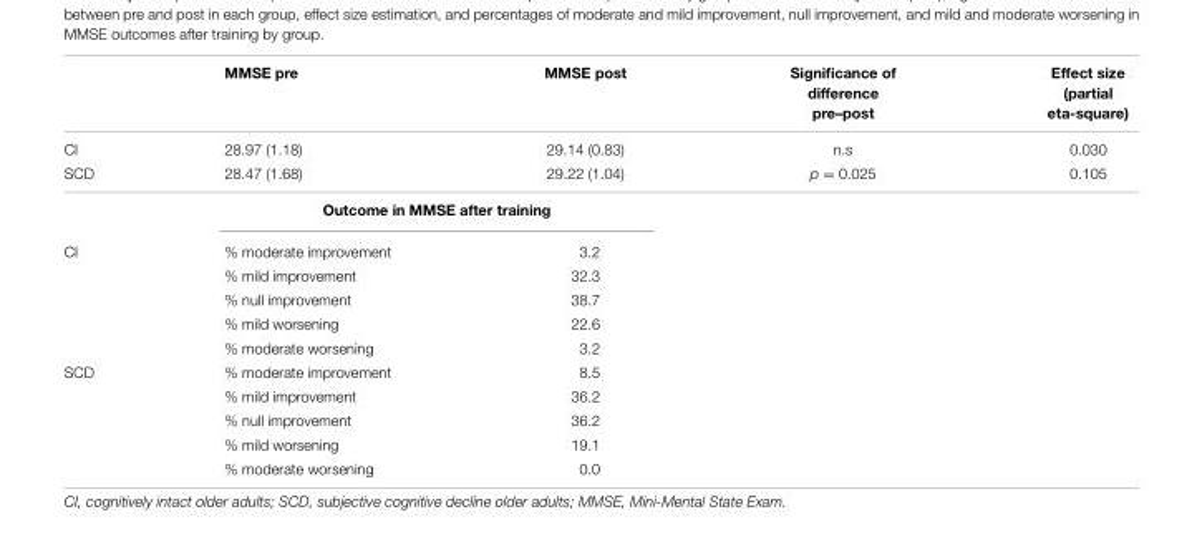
<table><thead><tr><td></td><td>MMSE pre</td><td>MMSE post</td><td>Significance of difference pre–post</td><td>Effect size (partial eta-square)</td></tr></thead><tbody><tr><td>CI</td><td>28.97 (1.18)</td><td>29.14 (0.83)</td><td>n.s</td><td>0.030</td></tr><tr><td rowspan="2">SCD</td><td>28.47 (1.68)</td><td>29.22 (1.04)</td><td>p = 0.025</td><td>0.105</td></tr><tr><td colspan="2">Outcome in MMSE after training</td><td></td><td></td></tr><tr><td rowspan="5">CI</td><td>% moderate improvement</td><td>3.2</td><td></td><td></td></tr><tr><td>% mild improvement</td><td>32.3</td><td></td><td></td></tr><tr><td>% null improvement</td><td>38.7</td><td></td><td></td></tr><tr><td>% mild worsening</td><td>22.6</td><td></td><td></td></tr><tr><td>% moderate worsening</td><td>3.2</td><td></td><td></td></tr><tr><td rowspan="5">SCD</td><td>% moderate improvement</td><td>8.5</td><td></td><td></td></tr><tr><td>% mild improvement</td><td>36.2</td><td></td><td></td></tr><tr><td>% null improvement</td><td>36.2</td><td></td><td></td></tr><tr><td>% mild worsening</td><td>19.1</td><td></td><td></td></tr><tr><td>% moderate worsening</td><td>0.0</td><td></td><td></td></tr></tbody></table>